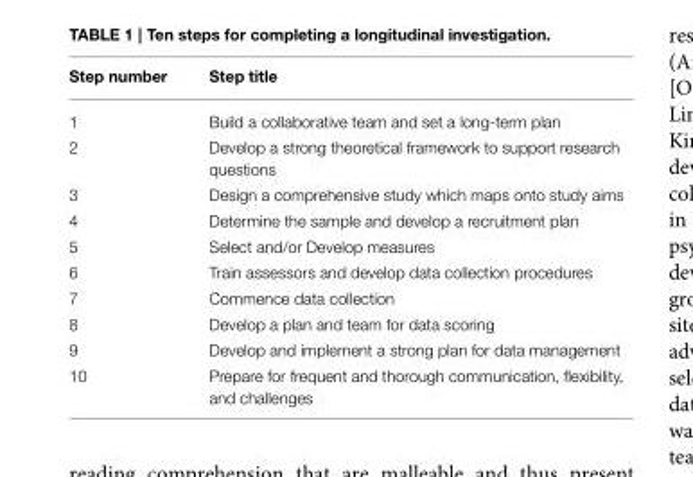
<table><thead><tr><td>Step number</td><td>Step title</td></tr></thead><tbody><tr><td>1</td><td>Build a collaborative team and set a long-term plan</td></tr><tr><td>2</td><td>Develop a strong theoretical framework to support research questions</td></tr><tr><td>3</td><td>Design a comprehensive study which maps onto study aims</td></tr><tr><td>4</td><td>Determine the sample and develop a recruitment plan</td></tr><tr><td>5</td><td>Select and/or Develop measures</td></tr><tr><td>6</td><td>Train assessors and develop data collection procedures</td></tr><tr><td>7</td><td>Commence data collection</td></tr><tr><td>8</td><td>Develop a plan and team for data scoring</td></tr><tr><td>9</td><td>Develop and implement a strong plan for data management</td></tr><tr><td>10</td><td>Prepare for frequent and thorough communication, flexibility, and challenges</td></tr></tbody></table>